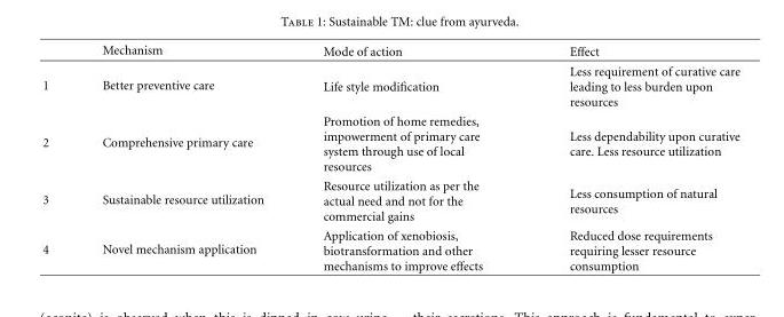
<table><thead><tr><td></td><td>Mechanism</td><td>Mode of action</td><td>Effect</td></tr></thead><tbody><tr><td>1</td><td>Better preventive care</td><td>Life style modification</td><td>Less requirement of curative care leading to less burden upon resources</td></tr><tr><td>2</td><td>Comprehensive primary care</td><td>Promotion of home remedies, impowerment of primary care system through use of local resources</td><td>Less dependability upon curative care. Less resource utilization</td></tr><tr><td>3</td><td>Sustainable resource utilization</td><td>Resource utilization as per the actual need and not for the commercial gains</td><td>Less consumption of natural resources</td></tr><tr><td>4</td><td>Novel mechanism application</td><td>Application of xenobiosis, biotransformation and other mechanisms to improve effects</td><td>Reduced dose requirements requiring lesser resource consumption</td></tr></tbody></table>